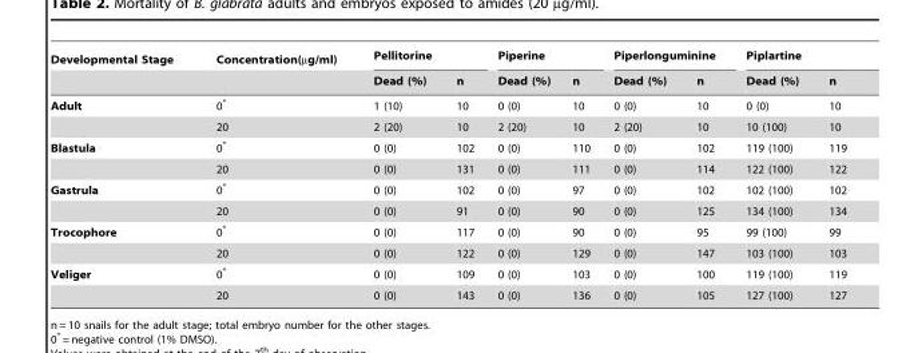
<table><thead><tr><td rowspan="2">Developmental Stage</td><td rowspan="2">Concentration(µg/ml)</td><td colspan="2">Pellitorine</td><td colspan="2">Piperine</td><td colspan="2">Piperlonguminine</td><td colspan="2">Piplartine</td></tr><tr><td>Dead (%)</td><td>n</td><td>Dead (%)</td><td>n</td><td>Dead (%)</td><td>n</td><td>Dead (%)</td><td>n</td></tr></thead><tbody><tr><td rowspan="2">Adult</td><td>0*</td><td>1 (10)</td><td>10</td><td>0 (0)</td><td>10</td><td>0 (0)</td><td>10</td><td>0 (0)</td><td>10</td></tr><tr><td>20</td><td>2 (20)</td><td>10</td><td>2 (20)</td><td>10</td><td>2 (20)</td><td>10</td><td>10 (100)</td><td>10</td></tr><tr><td rowspan="2">Blastula</td><td>0*</td><td>0 (0)</td><td>102</td><td>0 (0)</td><td>110</td><td>0 (0)</td><td>102</td><td>119 (100)</td><td>119</td></tr><tr><td>20</td><td>0 (0)</td><td>131</td><td>0 (0)</td><td>111</td><td>0 (0)</td><td>114</td><td>122 (100)</td><td>122</td></tr><tr><td rowspan="2">Gastrula</td><td>0*</td><td>0 (0)</td><td>102</td><td>0 (0)</td><td>97</td><td>0 (0)</td><td>102</td><td>102 (100)</td><td>102</td></tr><tr><td>20</td><td>0 (0)</td><td>91</td><td>0 (0)</td><td>90</td><td>0 (0)</td><td>125</td><td>134 (100)</td><td>134</td></tr><tr><td rowspan="2">Trocophore</td><td>0*</td><td>0 (0)</td><td>117</td><td>0 (0)</td><td>90</td><td>0 (0)</td><td>95</td><td>99 (100)</td><td>99</td></tr><tr><td>20</td><td>0 (0)</td><td>122</td><td>0 (0)</td><td>129</td><td>0 (0)</td><td>147</td><td>103 (100)</td><td>103</td></tr><tr><td rowspan="2">Veliger</td><td>0*</td><td>0 (0)</td><td>109</td><td>0 (0)</td><td>103</td><td>0 (0)</td><td>100</td><td>119 (100)</td><td>119</td></tr><tr><td>20</td><td>0 (0)</td><td>143</td><td>0 (0)</td><td>136</td><td>0 (0)</td><td>105</td><td>127 (100)</td><td>127</td></tr></tbody></table>